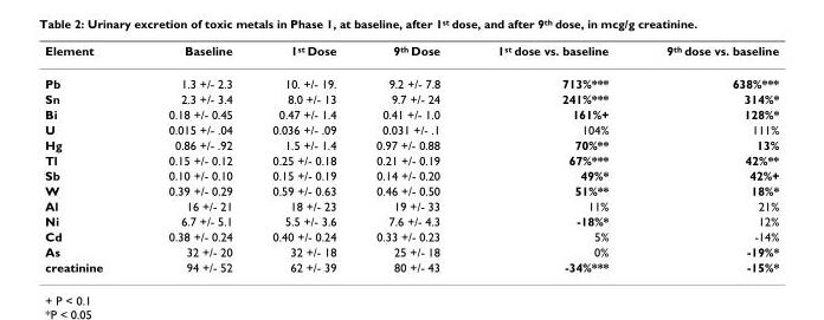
<table><thead><tr><td>Element</td><td>Baseline</td><td>1<sup>st</sup> Dose</td><td>9<sup>th</sup> Dose</td><td>1<sup>st</sup> dose vs. baseline</td><td>9<sup>th</sup> dose vs. baseline</td></tr></thead><tbody><tr><td>Pb</td><td>1.3 +/- 2.3</td><td>10. +/- 19.</td><td>9.2 +/- 7.8</td><td>713%***</td><td>638%***</td></tr><tr><td>Sn</td><td>2.3 +/- 3.4</td><td>8.0 +/- 13</td><td>9.7 +/- 24</td><td>241%***</td><td>314%*</td></tr><tr><td>Bi</td><td>0.18 +/- 0.45</td><td>0.47 +/- 1.4</td><td>0.41 +/- 1.0</td><td>161%+</td><td>128%*</td></tr><tr><td>U</td><td>0.015 +/- .04</td><td>0.036 +/- .09</td><td>0.031 +/- .1</td><td>104%</td><td>111%</td></tr><tr><td>Hg</td><td>0.86 +/- .92</td><td>1.5 +/- 1.4</td><td>0.97 +/- 0.88</td><td>70%**</td><td>13%</td></tr><tr><td>Tl</td><td>0.15 +/- 0.12</td><td>0.25 +/- 0.18</td><td>0.21 +/- 0.19</td><td>67%***</td><td>42%**</td></tr><tr><td>Sb</td><td>0.10 +/- 0.10</td><td>0.15 +/- 0.19</td><td>0.14 +/- 0.20</td><td>49%*</td><td>42%+</td></tr><tr><td>W</td><td>0.39 +/- 0.29</td><td>0.59 +/- 0.63</td><td>0.46 +/- 0.50</td><td>51%**</td><td>18%*</td></tr><tr><td>Al</td><td>16 +/- 21</td><td>18 +/- 23</td><td>19 +/- 33</td><td>11%</td><td>21%</td></tr><tr><td>Ni</td><td>6.7 +/- 5.1</td><td>5.5 +/- 3.6</td><td>7.6 +/- 4.3</td><td>-18%*</td><td>12%</td></tr><tr><td>Cd</td><td>0.38 +/- 0.24</td><td>0.40 +/- 0.24</td><td>0.33 +/- 0.23</td><td>5%</td><td>-14%</td></tr><tr><td>As</td><td>32 +/- 20</td><td>32 +/- 18</td><td>25 +/- 18</td><td>0%</td><td>-19%*</td></tr><tr><td>creatinine</td><td>94 +/- 52</td><td>62 +/- 39</td><td>80 +/- 43</td><td>-34%***</td><td>-15%*</td></tr></tbody></table>